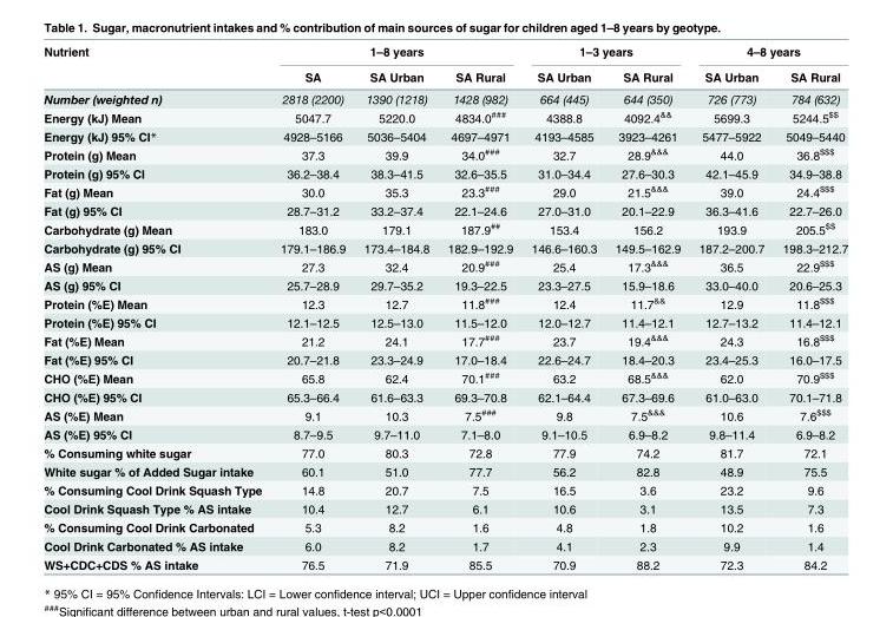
<table><thead><tr><td rowspan="2">Nutrient</td><td colspan="3">1–8 years</td><td colspan="2">1–3 years</td><td colspan="2">4–8 years</td></tr><tr><td>SA</td><td>SA Urban</td><td>SA Rural</td><td>SA Urban</td><td>SA Rural</td><td>SA Urban</td><td>SA Rural</td></tr></thead><tbody><tr><td>Number (weighted n)</td><td>2818 (2200)</td><td>1390 (1218)</td><td>1428 (982)</td><td>664 (445)</td><td>644 (350)</td><td>726 (773)</td><td>784 (632)</td></tr><tr><td>Energy (kJ) Mean</td><td>5047.7</td><td>5220.0</td><td>4834.0<sup>###</sup></td><td>4388.8</td><td>4092.4<sup>&amp;&amp;</sup></td><td>5699.3</td><td>5244.5<sup>$$</sup></td></tr><tr><td>Energy (kJ) 95% CI*</td><td>4928–5166</td><td>5036–5404</td><td>4697–4971</td><td>4193–4585</td><td>3923–4261</td><td>5477–5922</td><td>5049–5440</td></tr><tr><td>Protein (g) Mean</td><td>37.3</td><td>39.9</td><td>34.0<sup>###</sup></td><td>32.7</td><td>28.9<sup>&amp;&amp;&amp;</sup></td><td>44.0</td><td>36.8<sup>$$$</sup></td></tr><tr><td>Protein (g) 95% CI</td><td>36.2–38.4</td><td>38.3–41.5</td><td>32.6–35.5</td><td>31.0–34.4</td><td>27.6–30.3</td><td>42.1–45.9</td><td>34.9–38.8</td></tr><tr><td>Fat (g) Mean</td><td>30.0</td><td>35.3</td><td>23.3<sup>###</sup></td><td>29.0</td><td>21.5<sup>&amp;&amp;&amp;</sup></td><td>39.0</td><td>24.4<sup>$$$</sup></td></tr><tr><td>Fat (g) 95% CI</td><td>28.7–31.2</td><td>33.2–37.4</td><td>22.1–24.6</td><td>27.0–31.0</td><td>20.1–22.9</td><td>36.3–41.6</td><td>22.7–26.0</td></tr><tr><td>Carbohydrate (g) Mean</td><td>183.0</td><td>179.1</td><td>187.9<sup>##</sup></td><td>153.4</td><td>156.2</td><td>193.9</td><td>205.5<sup>$$</sup></td></tr><tr><td>Carbohydrate (g) 95% CI</td><td>179.1–186.9</td><td>173.4–184.8</td><td>182.9–192.9</td><td>146.6–160.3</td><td>149.5–162.9</td><td>187.2–200.7</td><td>198.3–212.7</td></tr><tr><td>AS (g) Mean</td><td>27.3</td><td>32.4</td><td>20.9<sup>###</sup></td><td>25.4</td><td>17.3<sup>&amp;&amp;&amp;</sup></td><td>36.5</td><td>22.9<sup>$$$</sup></td></tr><tr><td>AS (g) 95% CI</td><td>25.7–28.9</td><td>29.7–35.2</td><td>19.3–22.5</td><td>23.3–27.5</td><td>15.9–18.6</td><td>33.0–40.0</td><td>20.6–25.3</td></tr><tr><td>Protein (%E) Mean</td><td>12.3</td><td>12.7</td><td>11.8<sup>###</sup></td><td>12.4</td><td>11.7<sup>&amp;&amp;</sup></td><td>12.9</td><td>11.8<sup>$$$</sup></td></tr><tr><td>Protein (%E) 95% CI</td><td>12.1–12.5</td><td>12.5–13.0</td><td>11.5–12.0</td><td>12.0–12.7</td><td>11.4–12.1</td><td>12.7–13.2</td><td>11.4–12.1</td></tr><tr><td>Fat (%E) Mean</td><td>21.2</td><td>24.1</td><td>17.7<sup>###</sup></td><td>23.7</td><td>19.4<sup>&amp;&amp;&amp;</sup></td><td>24.3</td><td>16.8<sup>$$$</sup></td></tr><tr><td>Fat (%E) 95% CI</td><td>20.7–21.8</td><td>23.3–24.9</td><td>17.0–18.4</td><td>22.6–24.7</td><td>18.4–20.3</td><td>23.4–25.3</td><td>16.0–17.5</td></tr><tr><td>CHO (%E) Mean</td><td>65.8</td><td>62.4</td><td>70.1<sup>###</sup></td><td>63.2</td><td>68.5<sup>&amp;&amp;&amp;</sup></td><td>62.0</td><td>70.9<sup>$$$</sup></td></tr><tr><td>CHO (%E) 95% CI</td><td>65.3–66.4</td><td>61.6–63.3</td><td>69.3–70.8</td><td>62.1–64.4</td><td>67.3–69.6</td><td>61.0–63.0</td><td>70.1–71.8</td></tr><tr><td>AS (%E) Mean</td><td>9.1</td><td>10.3</td><td>7.5<sup>###</sup></td><td>9.8</td><td>7.5<sup>&amp;&amp;&amp;</sup></td><td>10.6</td><td>7.6<sup>$$$</sup></td></tr><tr><td>AS (%E) 95% CI</td><td>8.7–9.5</td><td>9.7–11.0</td><td>7.1–8.0</td><td>9.1–10.5</td><td>6.9–8.2</td><td>9.8–11.4</td><td>6.9–8.2</td></tr><tr><td>% Consuming white sugar</td><td>77.0</td><td>80.3</td><td>72.8</td><td>77.9</td><td>74.2</td><td>81.7</td><td>72.1</td></tr><tr><td>White sugar % of Added Sugar intake</td><td>60.1</td><td>51.0</td><td>77.7</td><td>56.2</td><td>82.8</td><td>48.9</td><td>75.5</td></tr><tr><td>% Consuming Cool Drink Squash Type</td><td>14.8</td><td>20.7</td><td>7.5</td><td>16.5</td><td>3.6</td><td>23.2</td><td>9.6</td></tr><tr><td>Cool Drink Squash Type % AS intake</td><td>10.4</td><td>12.7</td><td>6.1</td><td>10.6</td><td>3.1</td><td>13.5</td><td>7.3</td></tr><tr><td>% Consuming Cool Drink Carbonated</td><td>5.3</td><td>8.2</td><td>1.6</td><td>4.8</td><td>1.8</td><td>10.2</td><td>1.6</td></tr><tr><td>Cool Drink Carbonated % AS intake</td><td>6.0</td><td>8.2</td><td>1.7</td><td>4.1</td><td>2.3</td><td>9.9</td><td>1.4</td></tr><tr><td>WS+CDC+CDS % AS intake</td><td>76.5</td><td>71.9</td><td>85.5</td><td>70.9</td><td>88.2</td><td>72.3</td><td>84.2</td></tr></tbody></table>